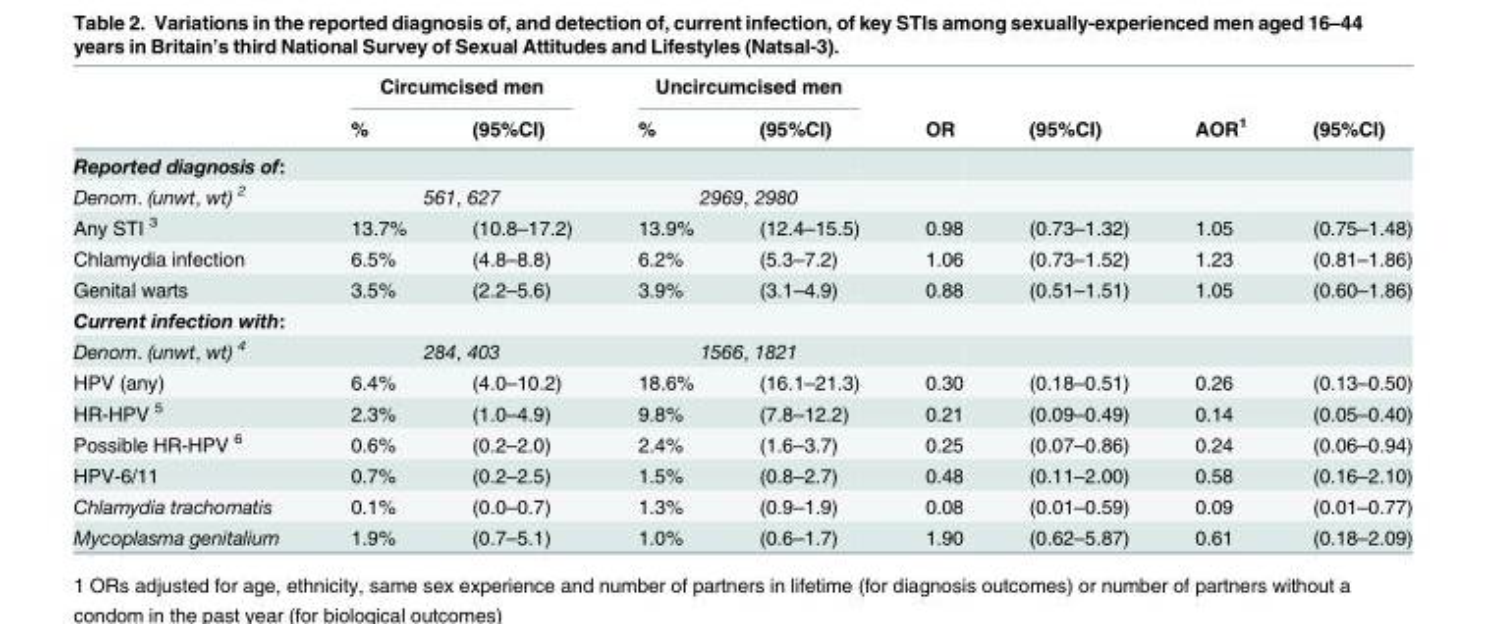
<table><thead><tr><td rowspan="2"></td><td colspan="2">Circumcised men</td><td colspan="2">Uncircumcised men</td><td rowspan="2">OR</td><td rowspan="2">(95%CI)</td><td rowspan="2">AOR<sup>1</sup></td><td rowspan="2">(95%CI)</td></tr><tr><td>%</td><td>(95%CI)</td><td>%</td><td>(95%CI)</td></tr></thead><tbody><tr><td colspan="9">Reported diagnosis of:</td></tr><tr><td>Denom. (unwt, wt) <sup>2</sup></td><td colspan="2">561, 627</td><td colspan="2">2969, 2980</td><td></td><td></td><td></td><td></td></tr><tr><td>Any STI <sup>3</sup></td><td>13.7%</td><td>(10.8–17.2)</td><td>13.9%</td><td>(12.4–15.5)</td><td>0.98</td><td>(0.73–1.32)</td><td>1.05</td><td>(0.75–1.48)</td></tr><tr><td>Chlamydia infection</td><td>6.5%</td><td>(4.8–8.8)</td><td>6.2%</td><td>(5.3–7.2)</td><td>1.06</td><td>(0.73–1.52)</td><td>1.23</td><td>(0.81–1.86)</td></tr><tr><td>Genital warts</td><td>3.5%</td><td>(2.2–5.6)</td><td>3.9%</td><td>(3.1–4.9)</td><td>0.88</td><td>(0.51–1.51)</td><td>1.05</td><td>(0.60–1.86)</td></tr><tr><td colspan="9">Current infection with:</td></tr><tr><td>Denom. (unwt, wt) <sup>4</sup></td><td colspan="2">284, 403</td><td colspan="2">1566, 1821</td><td></td><td></td><td></td><td></td></tr><tr><td>HPV (any)</td><td>6.4%</td><td>(4.0–10.2)</td><td>18.6%</td><td>(16.1–21.3)</td><td>0.30</td><td>(0.18–0.51)</td><td>0.26</td><td>(0.13–0.50)</td></tr><tr><td>HR-HPV <sup>5</sup></td><td>2.3%</td><td>(1.0–4.9)</td><td>9.8%</td><td>(7.8–12.2)</td><td>0.21</td><td>(0.09–0.49)</td><td>0.14</td><td>(0.05–0.40)</td></tr><tr><td>Possible HR-HPV <sup>6</sup></td><td>0.6%</td><td>(0.2–2.0)</td><td>2.4%</td><td>(1.6–3.7)</td><td>0.25</td><td>(0.07–0.86)</td><td>0.24</td><td>(0.06–0.94)</td></tr><tr><td>HPV-6/11</td><td>0.7%</td><td>(0.2–2.5)</td><td>1.5%</td><td>(0.8–2.7)</td><td>0.48</td><td>(0.11–2.00)</td><td>0.58</td><td>(0.16–2.10)</td></tr><tr><td>Chlamydia trachomatis</td><td>0.1%</td><td>(0.0–0.7)</td><td>1.3%</td><td>(0.9–1.9)</td><td>0.08</td><td>(0.01–0.59)</td><td>0.09</td><td>(0.01–0.77)</td></tr><tr><td>Mycoplasma genitalium</td><td>1.9%</td><td>(0.7–5.1)</td><td>1.0%</td><td>(0.6–1.7)</td><td>1.90</td><td>(0.62–5.87)</td><td>0.61</td><td>(0.18–2.09)</td></tr></tbody></table>